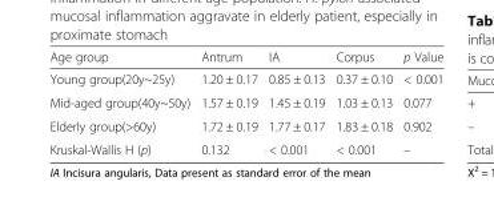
<table><thead><tr><td>Age group</td><td>Antrum</td><td>IA</td><td>Corpus</td><td>p Value</td></tr></thead><tbody><tr><td>Young group(20y~25y)</td><td>1.20 ± 0.17</td><td>0.85 ± 0.13</td><td>0.37 ± 0.10</td><td>&lt; 0.001</td></tr><tr><td>Mid-aged group(40y~50y)</td><td>1.57 ± 0.19</td><td>1.45 ± 0.19</td><td>1.03 ± 0.13</td><td>0.077</td></tr><tr><td>Elderly group(&gt;60y)</td><td>1.72 ± 0.19</td><td>1.77 ± 0.17</td><td>1.83 ± 0.18</td><td>0.902</td></tr><tr><td>Kruskal-Wallis H (p)</td><td>0.132</td><td>&lt; 0.001</td><td>&lt; 0.001</td><td>–</td></tr></tbody></table>